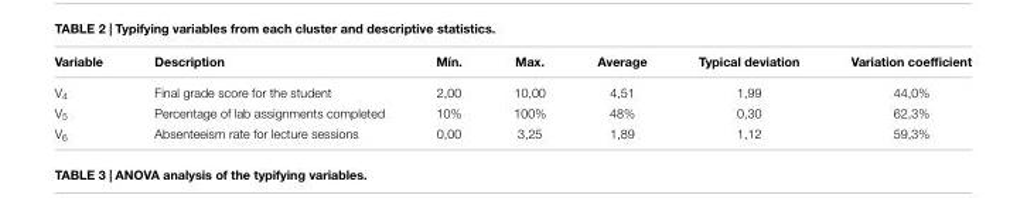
<table><thead><tr><td>Variable</td><td>Description</td><td>Mín.</td><td>Max.</td><td>Average</td><td>Typical deviation</td><td>Variation coefficient</td></tr></thead><tbody><tr><td>V<sub>4</sub></td><td>Final grade score for the student</td><td>2,00</td><td>10,00</td><td>4,51</td><td>1,99</td><td>44,0%</td></tr><tr><td>V<sub>5</sub></td><td>Percentage of lab assignments completed</td><td>10%</td><td>100%</td><td>48%</td><td>0,30</td><td>62,3%</td></tr><tr><td>V<sub>6</sub></td><td>Absenteeism rate for lecture sessions</td><td>0,00</td><td>3,25</td><td>1,89</td><td>1,12</td><td>59,3%</td></tr></tbody></table>